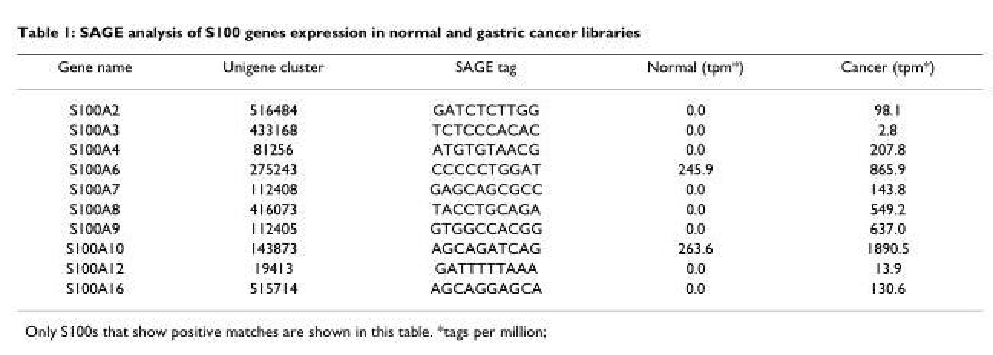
<table><thead><tr><td>Gene name</td><td>Unigene cluster</td><td>SAGE tag</td><td>Normal (tpm*)</td><td>Cancer (tpm*)</td></tr></thead><tbody><tr><td>S100A2</td><td>516484</td><td>GATCTCTTGG</td><td>0.0</td><td>98.1</td></tr><tr><td>S100A3</td><td>433168</td><td>TCTCCCACAC</td><td>0.0</td><td>2.8</td></tr><tr><td>S100A4</td><td>81256</td><td>ATGTGTAACG</td><td>0.0</td><td>207.8</td></tr><tr><td>S100A6</td><td>275243</td><td>CCCCCTGGAT</td><td>245.9</td><td>865.9</td></tr><tr><td>S100A7</td><td>112408</td><td>GAGCAGCGCC</td><td>0.0</td><td>143.8</td></tr><tr><td>S100A8</td><td>416073</td><td>TACCTGCAGA</td><td>0.0</td><td>549.2</td></tr><tr><td>S100A9</td><td>112405</td><td>GTGGCCACGG</td><td>0.0</td><td>637.0</td></tr><tr><td>S100A10</td><td>143873</td><td>AGCAGATCAG</td><td>263.6</td><td>1890.5</td></tr><tr><td>S100A12</td><td>19413</td><td>GATTTTTAAA</td><td>0.0</td><td>13.9</td></tr><tr><td>S100A16</td><td>515714</td><td>AGCAGGAGCA</td><td>0.0</td><td>130.6</td></tr></tbody></table>